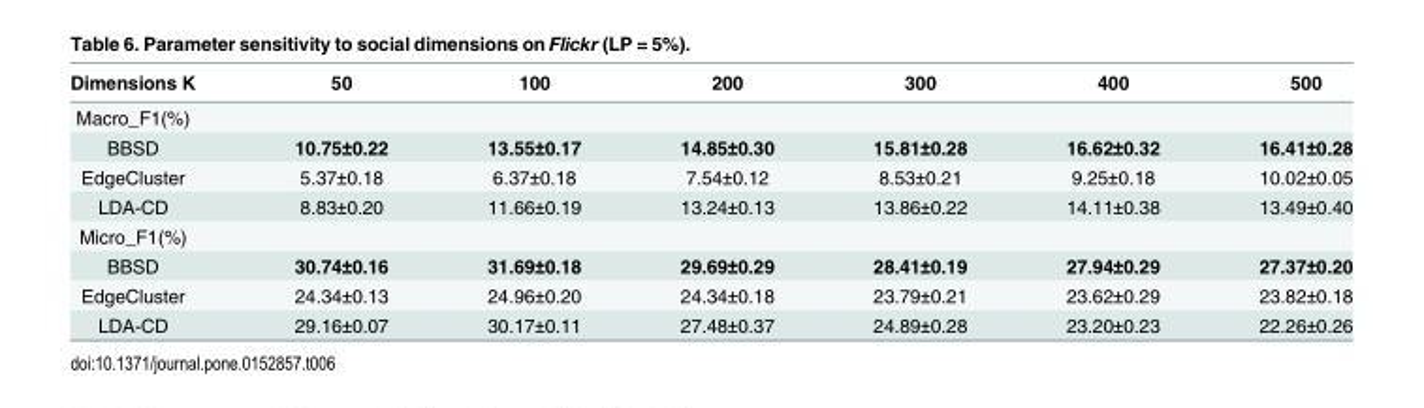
<table><thead><tr><td>Dimensions K</td><td>50</td><td>100</td><td>200</td><td>300</td><td>400</td><td>500</td></tr></thead><tbody><tr><td colspan="7">Macro_F1(%)</td></tr><tr><td>BBSD</td><td>10.75±0.22</td><td>13.55±0.17</td><td>14.85±0.30</td><td>15.81±0.28</td><td>16.62±0.32</td><td>16.41±0.28</td></tr><tr><td>EdgeCluster</td><td>5.37±0.18</td><td>6.37±0.18</td><td>7.54±0.12</td><td>8.53±0.21</td><td>9.25±0.18</td><td>10.02±0.05</td></tr><tr><td>LDA-CD</td><td>8.83±0.20</td><td>11.66±0.19</td><td>13.24±0.13</td><td>13.86±0.22</td><td>14.11±0.38</td><td>13.49±0.40</td></tr><tr><td colspan="7">Micro_F1(%)</td></tr><tr><td>BBSD</td><td>30.74±0.16</td><td>31.69±0.18</td><td>29.69±0.29</td><td>28.41±0.19</td><td>27.94±0.29</td><td>27.37±0.20</td></tr><tr><td>EdgeCluster</td><td>24.34±0.13</td><td>24.96±0.20</td><td>24.34±0.18</td><td>23.79±0.21</td><td>23.62±0.29</td><td>23.82±0.18</td></tr><tr><td>LDA-CD</td><td>29.16±0.07</td><td>30.17±0.11</td><td>27.48±0.37</td><td>24.89±0.28</td><td>23.20±0.23</td><td>22.26±0.26</td></tr></tbody></table>